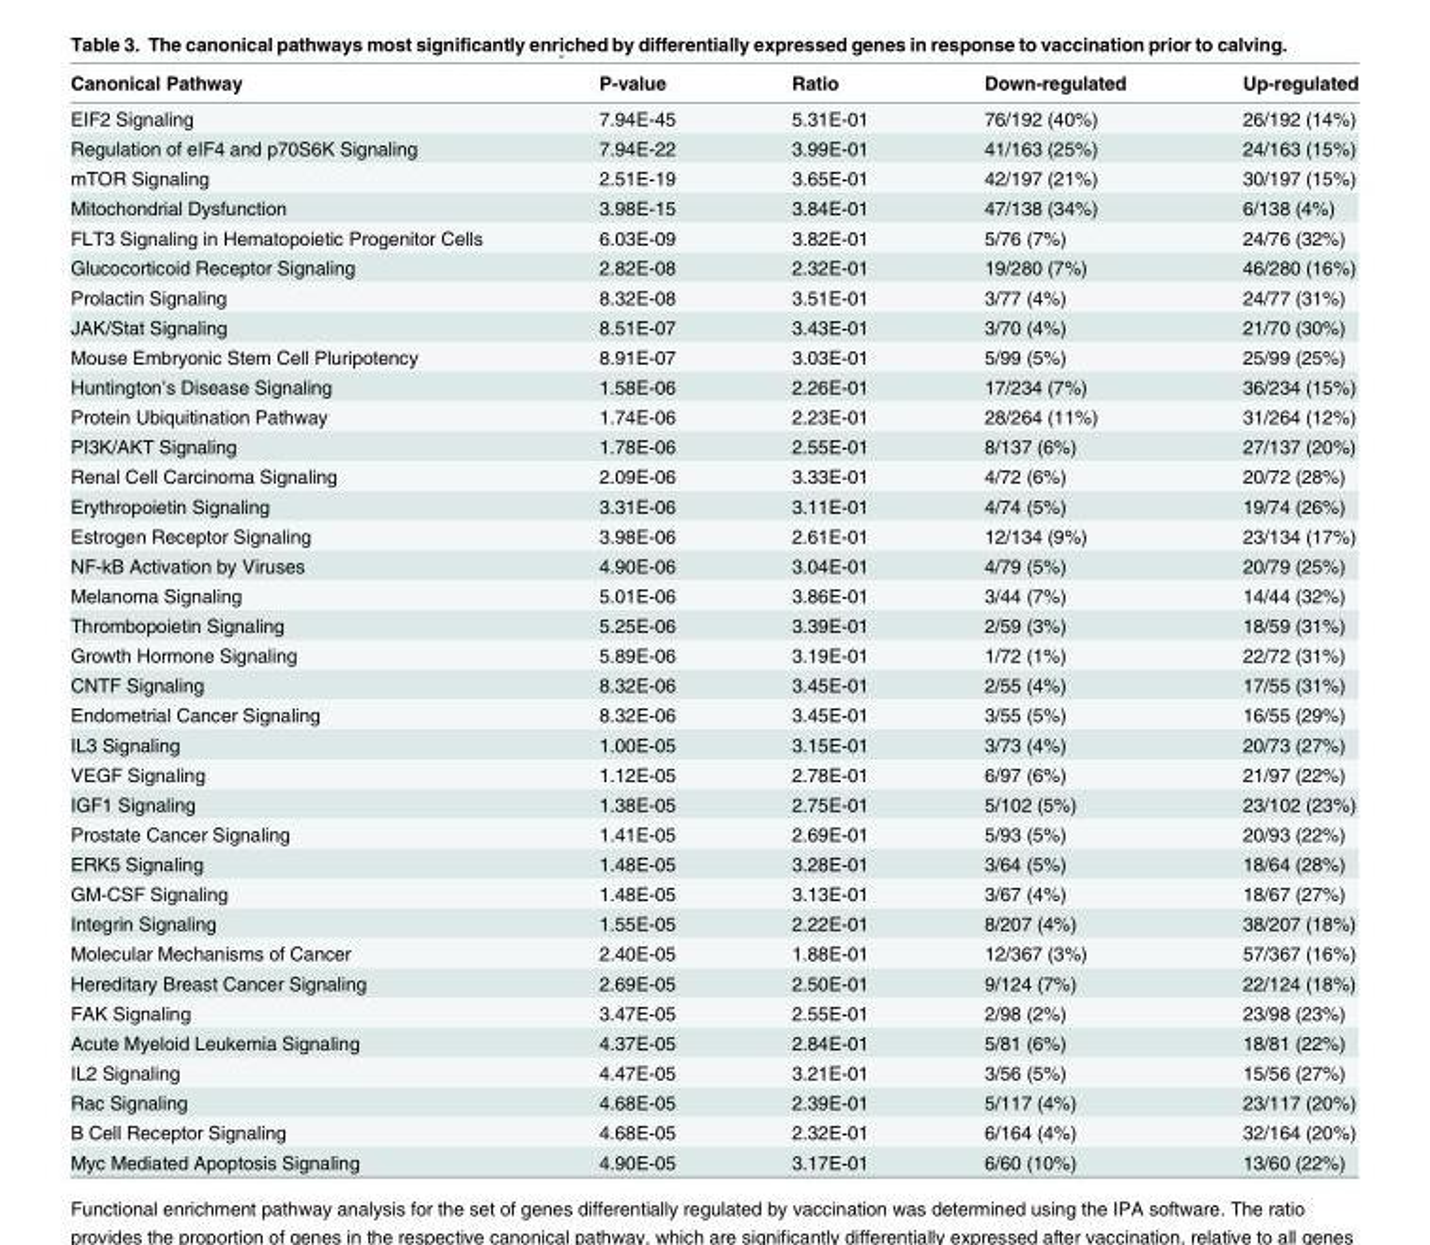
<table><thead><tr><td>Canonical Pathway</td><td>P-value</td><td>Ratio</td><td>Down-regulated</td><td>Up-regulated</td></tr></thead><tbody><tr><td>EIF2 Signaling</td><td>7.94E-45</td><td>5.31E-01</td><td>76/192 (40%)</td><td>26/192 (14%)</td></tr><tr><td>Regulation of eIF4 and p70S6K Signaling</td><td>7.94E-22</td><td>3.99E-01</td><td>41/163 (25%)</td><td>24/163 (15%)</td></tr><tr><td>mTOR Signaling</td><td>2.51E-19</td><td>3.65E-01</td><td>42/197 (21%)</td><td>30/197 (15%)</td></tr><tr><td>Mitochondrial Dysfunction</td><td>3.98E-15</td><td>3.84E-01</td><td>47/138 (34%)</td><td>6/138 (4%)</td></tr><tr><td>FLT3 Signaling in Hematopoietic Progenitor Cells</td><td>6.03E-09</td><td>3.82E-01</td><td>5/76 (7%)</td><td>24/76 (32%)</td></tr><tr><td>Glucocorticoid Receptor Signaling</td><td>2.82E-08</td><td>2.32E-01</td><td>19/280 (7%)</td><td>46/280 (16%)</td></tr><tr><td>Prolactin Signaling</td><td>8.32E-08</td><td>3.51E-01</td><td>3/77 (4%)</td><td>24/77 (31%)</td></tr><tr><td>JAK/Stat Signaling</td><td>8.51E-07</td><td>3.43E-01</td><td>3/70 (4%)</td><td>21/70 (30%)</td></tr><tr><td>Mouse Embryonic Stem Cell Pluripotency</td><td>8.91E-07</td><td>3.03E-01</td><td>5/99 (5%)</td><td>25/99 (25%)</td></tr><tr><td>Huntington’s Disease Signaling</td><td>1.58E-06</td><td>2.26E-01</td><td>17/234 (7%)</td><td>36/234 (15%)</td></tr><tr><td>Protein Ubiquitination Pathway</td><td>1.74E-06</td><td>2.23E-01</td><td>28/264 (11%)</td><td>31/264 (12%)</td></tr><tr><td>PI3K/AKT Signaling</td><td>1.78E-06</td><td>2.55E-01</td><td>8/137 (6%)</td><td>27/137 (20%)</td></tr><tr><td>Renal Cell Carcinoma Signaling</td><td>2.09E-06</td><td>3.33E-01</td><td>4/72 (6%)</td><td>20/72 (28%)</td></tr><tr><td>Erythropoietin Signaling</td><td>3.31E-06</td><td>3.11E-01</td><td>4/74 (5%)</td><td>19/74 (26%)</td></tr><tr><td>Estrogen Receptor Signaling</td><td>3.98E-06</td><td>2.61E-01</td><td>12/134 (9%)</td><td>23/134 (17%)</td></tr><tr><td>NF-kB Activation by Viruses</td><td>4.90E-06</td><td>3.04E-01</td><td>4/79 (5%)</td><td>20/79 (25%)</td></tr><tr><td>Melanoma Signaling</td><td>5.01E-06</td><td>3.86E-01</td><td>3/44 (7%)</td><td>14/44 (32%)</td></tr><tr><td>Thrombopoietin Signaling</td><td>5.25E-06</td><td>3.39E-01</td><td>2/59 (3%)</td><td>18/59 (31%)</td></tr><tr><td>Growth Hormone Signaling</td><td>5.89E-06</td><td>3.19E-01</td><td>1/72 (1%)</td><td>22/72 (31%)</td></tr><tr><td>CNTF Signaling</td><td>8.32E-06</td><td>3.45E-01</td><td>2/55 (4%)</td><td>17/55 (31%)</td></tr><tr><td>Endometrial Cancer Signaling</td><td>8.32E-06</td><td>3.45E-01</td><td>3/55 (5%)</td><td>16/55 (29%)</td></tr><tr><td>IL3 Signaling</td><td>1.00E-05</td><td>3.15E-01</td><td>3/73 (4%)</td><td>20/73 (27%)</td></tr><tr><td>VEGF Signaling</td><td>1.12E-05</td><td>2.78E-01</td><td>6/97 (6%)</td><td>21/97 (22%)</td></tr><tr><td>IGF1 Signaling</td><td>1.38E-05</td><td>2.75E-01</td><td>5/102 (5%)</td><td>23/102 (23%)</td></tr><tr><td>Prostate Cancer Signaling</td><td>1.41E-05</td><td>2.69E-01</td><td>5/93 (5%)</td><td>20/93 (22%)</td></tr><tr><td>ERK5 Signaling</td><td>1.48E-05</td><td>3.28E-01</td><td>3/64 (5%)</td><td>18/64 (28%)</td></tr><tr><td>GM-CSF Signaling</td><td>1.48E-05</td><td>3.13E-01</td><td>3/67 (4%)</td><td>18/67 (27%)</td></tr><tr><td>Integrin Signaling</td><td>1.55E-05</td><td>2.22E-01</td><td>8/207 (4%)</td><td>38/207 (18%)</td></tr><tr><td>Molecular Mechanisms of Cancer</td><td>2.40E-05</td><td>1.88E-01</td><td>12/367 (3%)</td><td>57/367 (16%)</td></tr><tr><td>Hereditary Breast Cancer Signaling</td><td>2.69E-05</td><td>2.50E-01</td><td>9/124 (7%)</td><td>22/124 (18%)</td></tr><tr><td>FAK Signaling</td><td>3.47E-05</td><td>2.55E-01</td><td>2/98 (2%)</td><td>23/98 (23%)</td></tr><tr><td>Acute Myeloid Leukemia Signaling</td><td>4.37E-05</td><td>2.84E-01</td><td>5/81 (6%)</td><td>18/81 (22%)</td></tr><tr><td>IL2 Signaling</td><td>4.47E-05</td><td>3.21E-01</td><td>3/56 (5%)</td><td>15/56 (27%)</td></tr><tr><td>Rac Signaling</td><td>4.68E-05</td><td>2.39E-01</td><td>5/117 (4%)</td><td>23/117 (20%)</td></tr><tr><td>B Cell Receptor Signaling</td><td>4.68E-05</td><td>2.32E-01</td><td>6/164 (4%)</td><td>32/164 (20%)</td></tr><tr><td>Myc Mediated Apoptosis Signaling</td><td>4.90E-05</td><td>3.17E-01</td><td>6/60 (10%)</td><td>13/60 (22%)</td></tr></tbody></table>